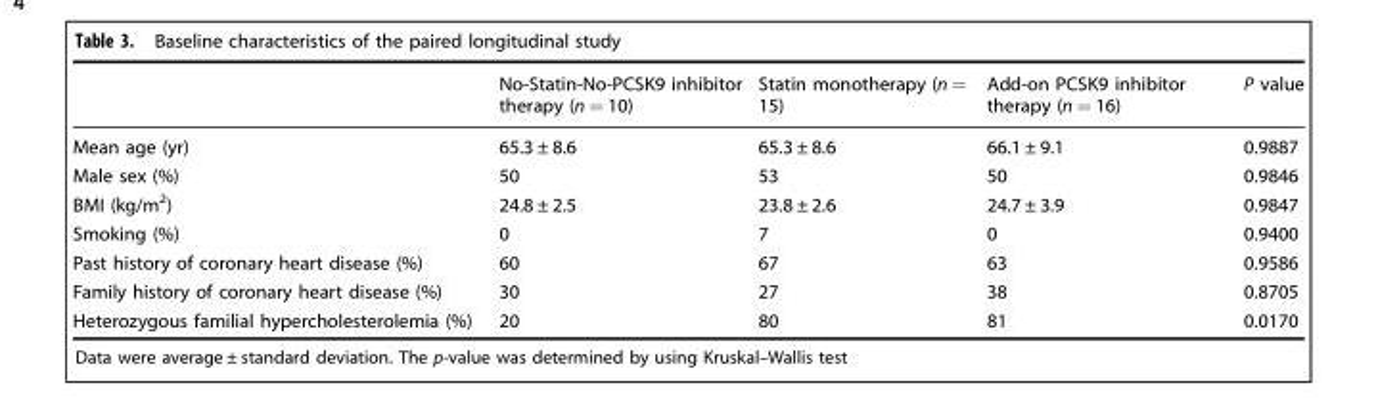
<table><thead><tr><td></td><td>No-Statin-No-PCSK9 inhibitor therapy (n = 10)</td><td>Statin monotherapy (n = 15)</td><td>Add-on PCSK9 inhibitor therapy (n = 16)</td><td>P value</td></tr></thead><tbody><tr><td>Mean age (yr)</td><td>65.3 ± 8.6</td><td>65.3 ± 8.6</td><td>66.1 ± 9.1</td><td>0.9887</td></tr><tr><td>Male sex (%)</td><td>50</td><td>53</td><td>50</td><td>0.9846</td></tr><tr><td>BMI (kg/m<sup>2</sup>)</td><td>24.8 ± 2.5</td><td>23.8 ± 2.6</td><td>24.7 ± 3.9</td><td>0.9847</td></tr><tr><td>Smoking (%)</td><td>0</td><td>7</td><td>0</td><td>0.9400</td></tr><tr><td>Past history of coronary heart disease (%)</td><td>60</td><td>67</td><td>63</td><td>0.9586</td></tr><tr><td>Family history of coronary heart disease (%)</td><td>30</td><td>27</td><td>38</td><td>0.8705</td></tr><tr><td>Heterozygous familial hypercholesterolemia (%)</td><td>20</td><td>80</td><td>81</td><td>0.0170</td></tr></tbody></table>